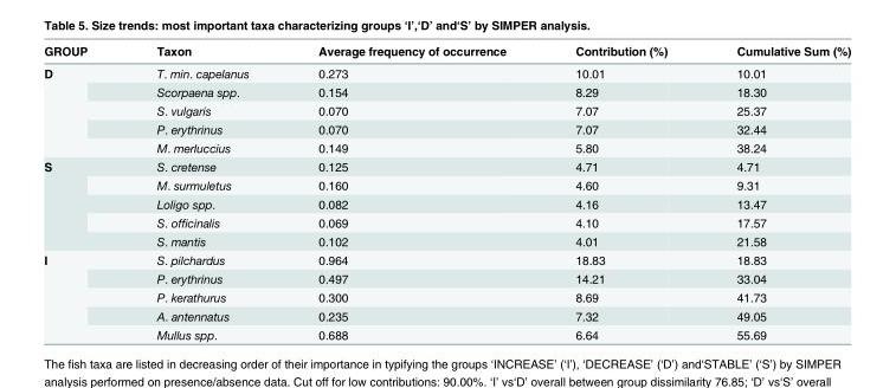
<table><thead><tr><td>GROUP</td><td>Taxon</td><td>Average frequency of occurrence</td><td>Contribution (%)</td><td>Cumulative Sum (%)</td></tr></thead><tbody><tr><td rowspan="5">D</td><td>T. min. capelanus</td><td>0.273</td><td>10.01</td><td>10.01</td></tr><tr><td>Scorpaena spp.</td><td>0.154</td><td>8.29</td><td>18.30</td></tr><tr><td>S. vulgaris</td><td>0.070</td><td>7.07</td><td>25.37</td></tr><tr><td>P. erythrinus</td><td>0.070</td><td>7.07</td><td>32.44</td></tr><tr><td>M. merluccius</td><td>0.149</td><td>5.80</td><td>38.24</td></tr><tr><td rowspan="5">S</td><td>S. cretense</td><td>0.125</td><td>4.71</td><td>4.71</td></tr><tr><td>M. surmuletus</td><td>0.160</td><td>4.60</td><td>9.31</td></tr><tr><td>Loligo spp.</td><td>0.082</td><td>4.16</td><td>13.47</td></tr><tr><td>S. officinalis</td><td>0.069</td><td>4.10</td><td>17.57</td></tr><tr><td>S. mantis</td><td>0.102</td><td>4.01</td><td>21.58</td></tr><tr><td rowspan="5">I</td><td>S. pilchardus</td><td>0.964</td><td>18.83</td><td>18.83</td></tr><tr><td>P. erythrinus</td><td>0.497</td><td>14.21</td><td>33.04</td></tr><tr><td>P. kerathurus</td><td>0.300</td><td>8.69</td><td>41.73</td></tr><tr><td>A. antennatus</td><td>0.235</td><td>7.32</td><td>49.05</td></tr><tr><td>Mullus spp.</td><td>0.688</td><td>6.64</td><td>55.69</td></tr></tbody></table>